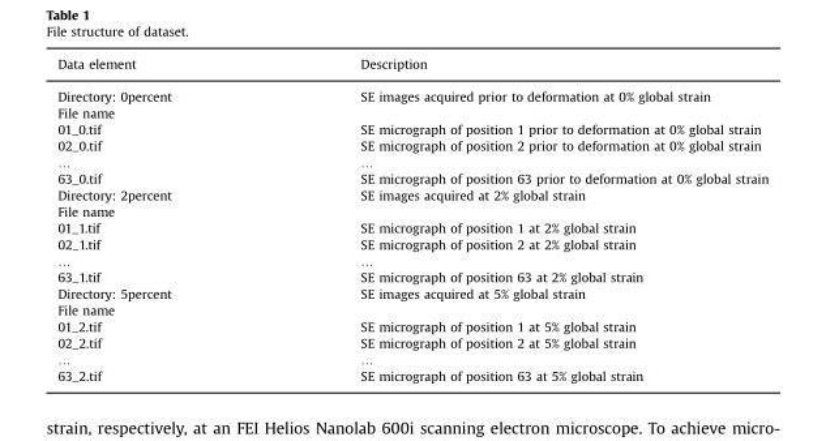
<table><thead><tr><td>Data element</td><td>Description</td></tr></thead><tbody><tr><td>Directory: 0percent</td><td>SE images acquired prior to deformation at 0% global strain</td></tr><tr><td colspan="2">File name</td></tr><tr><td>01_0.tif</td><td>SE micrograph of position 1 prior to deformation at 0% global strain</td></tr><tr><td>02_0.tif</td><td>SE micrograph of position 2 prior to deformation at 0% global strain</td></tr><tr><td>…</td><td>…</td></tr><tr><td>63_0.tif</td><td>SE micrograph of position 63 prior to deformation at 0% global strain</td></tr><tr><td>Directory: 2percent</td><td>SE images acquired at 2% global strain</td></tr><tr><td colspan="2">File name</td></tr><tr><td>01_1.tif</td><td>SE micrograph of position 1 at 2% global strain</td></tr><tr><td>02_1.tif</td><td>SE micrograph of position 2 at 2% global strain</td></tr><tr><td>…</td><td>…</td></tr><tr><td>63_1.tif</td><td>SE micrograph of position 63 at 2% global strain</td></tr><tr><td>Directory: 5percent</td><td>SE images acquired at 5% global strain</td></tr><tr><td colspan="2">File name</td></tr><tr><td>01_2.tif</td><td>SE micrograph of position 1 at 5% global strain</td></tr><tr><td>02_2.tif</td><td>SE micrograph of position 2 at 5% global strain</td></tr><tr><td>…</td><td>…</td></tr><tr><td>63_2.tif</td><td>SE micrograph of position 63 at 5% global strain</td></tr></tbody></table>